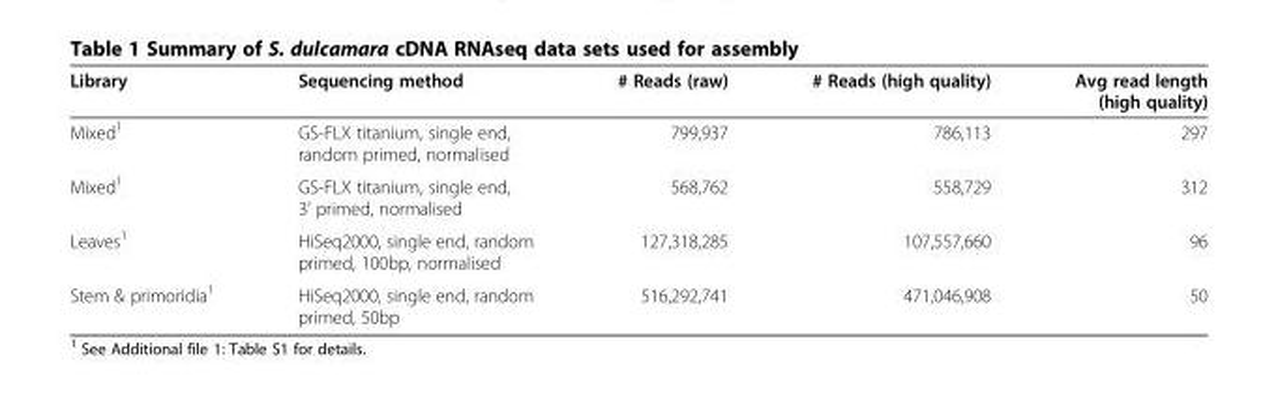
<table><thead><tr><td>Library</td><td>Sequencing method</td><td># Reads (raw)</td><td># Reads (high quality)</td><td>Avg read length (high quality)</td></tr></thead><tbody><tr><td>Mixed<sup>1</sup></td><td>GS-FLX titanium, single end, random primed, normalised</td><td>799,937</td><td>786,113</td><td>297</td></tr><tr><td>Mixed<sup>1</sup></td><td>GS-FLX titanium, single end, 3’ primed, normalised</td><td>568,762</td><td>558,729</td><td>312</td></tr><tr><td>Leaves<sup>1</sup></td><td>HiSeq2000, single end, random primed, 100bp, normalised</td><td>127,318,285</td><td>107,557,660</td><td>96</td></tr><tr><td>Stem &amp; primoridia<sup>1</sup></td><td>HiSeq2000, single end, random primed, 50bp</td><td>516,292,741</td><td>471,046,908</td><td>50</td></tr></tbody></table>